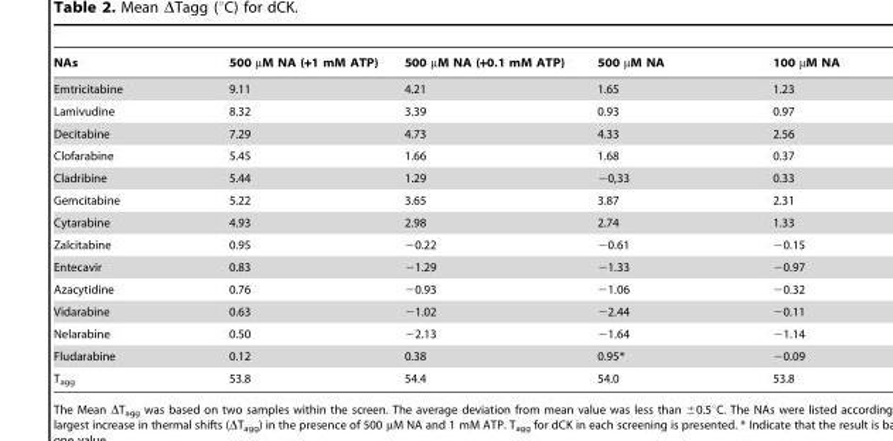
<table><thead><tr><td>NAs</td><td>500 µM NA (+1 mM ATP)</td><td>500 µM NA (+0.1 mM ATP)</td><td>500 µM NA</td><td>100 µM NA</td></tr></thead><tbody><tr><td>Emtricitabine</td><td>9.11</td><td>4.21</td><td>1.65</td><td>1.23</td></tr><tr><td>Lamivudine</td><td>8.32</td><td>3.39</td><td>0.93</td><td>0.97</td></tr><tr><td>Decitabine</td><td>7.29</td><td>4.73</td><td>4.33</td><td>2.56</td></tr><tr><td>Clofarabine</td><td>5.45</td><td>1.66</td><td>1.68</td><td>0.37</td></tr><tr><td>Cladribine</td><td>5.44</td><td>1.29</td><td>−0,33</td><td>0.33</td></tr><tr><td>Gemcitabine</td><td>5.22</td><td>3.65</td><td>3.87</td><td>2.31</td></tr><tr><td>Cytarabine</td><td>4.93</td><td>2.98</td><td>2.74</td><td>1.33</td></tr><tr><td>Zalcitabine</td><td>0.95</td><td>−0.22</td><td>−0.61</td><td>−0.15</td></tr><tr><td>Entecavir</td><td>0.83</td><td>−1.29</td><td>−1.33</td><td>−0.97</td></tr><tr><td>Azacytidine</td><td>0.76</td><td>−0.93</td><td>−1.06</td><td>−0.32</td></tr><tr><td>Vidarabine</td><td>0.63</td><td>−1.02</td><td>−2.44</td><td>−0.11</td></tr><tr><td>Nelarabine</td><td>0.50</td><td>−2.13</td><td>−1.64</td><td>−1.14</td></tr><tr><td>Fludarabine</td><td>0.12</td><td>0.38</td><td>0.95*</td><td>−0.09</td></tr><tr><td>T<sub>agg</sub></td><td>53.8</td><td>54.4</td><td>54.0</td><td>53.8</td></tr></tbody></table>